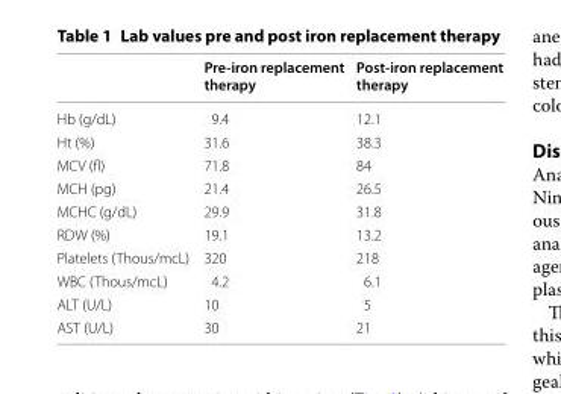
<table><thead><tr><td></td><td>Pre-iron replacement therapy</td><td>Post-iron replacement therapy</td></tr></thead><tbody><tr><td>Hb (g/dL)</td><td>9.4</td><td>12.1</td></tr><tr><td>Ht (%)</td><td>31.6</td><td>38.3</td></tr><tr><td>MCV (fl)</td><td>71.8</td><td>84</td></tr><tr><td>MCH (pg)</td><td>21.4</td><td>26.5</td></tr><tr><td>MCHC (g/dL)</td><td>29.9</td><td>31.8</td></tr><tr><td>RDW (%)</td><td>19.1</td><td>13.2</td></tr><tr><td>Platelets (Thous/mcL)</td><td>320</td><td>218</td></tr><tr><td>WBC (Thous/mcL)</td><td>4.2</td><td>6.1</td></tr><tr><td>ALT (U/L)</td><td>10</td><td>5</td></tr><tr><td>AST (U/L)</td><td>30</td><td>21</td></tr></tbody></table>